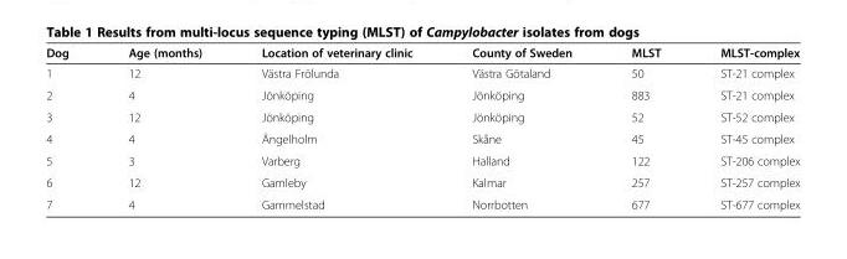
<table><thead><tr><td>Dog</td><td>Age (months)</td><td>Location of veterinary clinic</td><td>County of Sweden</td><td>MLST</td><td>MLST-complex</td></tr></thead><tbody><tr><td>1</td><td>12</td><td>Västra Frölunda</td><td>Västra Götaland</td><td>50</td><td>ST-21 complex</td></tr><tr><td>2</td><td>4</td><td>Jönköping</td><td>Jönköping</td><td>883</td><td>ST-21 complex</td></tr><tr><td>3</td><td>12</td><td>Jönköping</td><td>Jönköping</td><td>52</td><td>ST-52 complex</td></tr><tr><td>4</td><td>4</td><td>Ängelholm</td><td>Skåne</td><td>45</td><td>ST-45 complex</td></tr><tr><td>5</td><td>3</td><td>Varberg</td><td>Halland</td><td>122</td><td>ST-206 complex</td></tr><tr><td>6</td><td>12</td><td>Gamleby</td><td>Kalmar</td><td>257</td><td>ST-257 complex</td></tr><tr><td>7</td><td>4</td><td>Gammelstad</td><td>Norrbotten</td><td>677</td><td>ST-677 complex</td></tr></tbody></table>